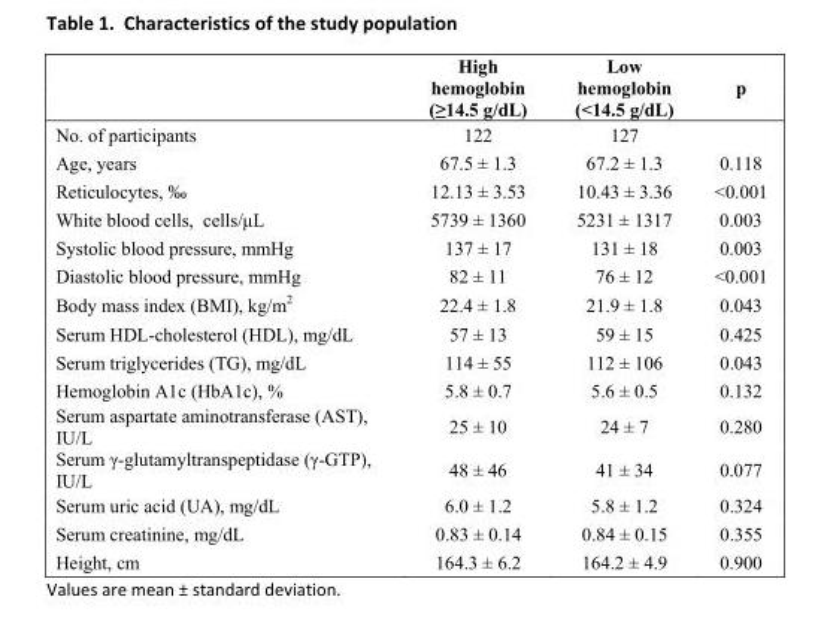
<table><thead><tr><td></td><td>High hemoglobin (≥14.5 g/dL)</td><td>Low hemoglobin (&lt;14.5 g/dL)</td><td>p</td></tr></thead><tbody><tr><td>No. of participants</td><td>122</td><td>127</td><td></td></tr><tr><td>Age, years</td><td>67.5 ± 1.3</td><td>67.2 ± 1.3</td><td>0.118</td></tr><tr><td>Reticulocytes, ‰</td><td>12.13 ± 3.53</td><td>10.43 ± 3.36</td><td>&lt;0.001</td></tr><tr><td>White blood cells, cells/μL</td><td>5739 ± 1360</td><td>5231 ± 1317</td><td>0.003</td></tr><tr><td>Systolic blood pressure, mmHg</td><td>137 ± 17</td><td>131 ± 18</td><td>0.003</td></tr><tr><td>Diastolic blood pressure, mmHg</td><td>82 ± 11</td><td>76 ± 12</td><td>&lt;0.001</td></tr><tr><td>Body mass index (BMI), kg/m<sup>2</sup></td><td>22.4 ± 1.8</td><td>21.9 ± 1.8</td><td>0.043</td></tr><tr><td>Serum HDL-cholesterol (HDL), mg/dL</td><td>57 ± 13</td><td>59 ± 15</td><td>0.425</td></tr><tr><td>Serum triglycerides (TG), mg/dL</td><td>114 ± 55</td><td>112 ± 106</td><td>0.043</td></tr><tr><td>Hemoglobin A1c (HbA1c), %</td><td>5.8 ± 0.7</td><td>5.6 ± 0.5</td><td>0.132</td></tr><tr><td>Serum aspartate aminotransferase (AST), IU/L</td><td>25 ± 10</td><td>24 ± 7</td><td>0.280</td></tr><tr><td>Serum γ-glutamyltranspeptidase (γ-GTP), IU/L</td><td>48 ± 46</td><td>41 ± 34</td><td>0.077</td></tr><tr><td>Serum uric acid (UA), mg/dL</td><td>6.0 ± 1.2</td><td>5.8 ± 1.2</td><td>0.324</td></tr><tr><td>Serum creatinine, mg/dL</td><td>0.83 ± 0.14</td><td>0.84 ± 0.15</td><td>0.355</td></tr><tr><td>Height, cm</td><td>164.3 ± 6.2</td><td>164.2 ± 4.9</td><td>0.900</td></tr></tbody></table>